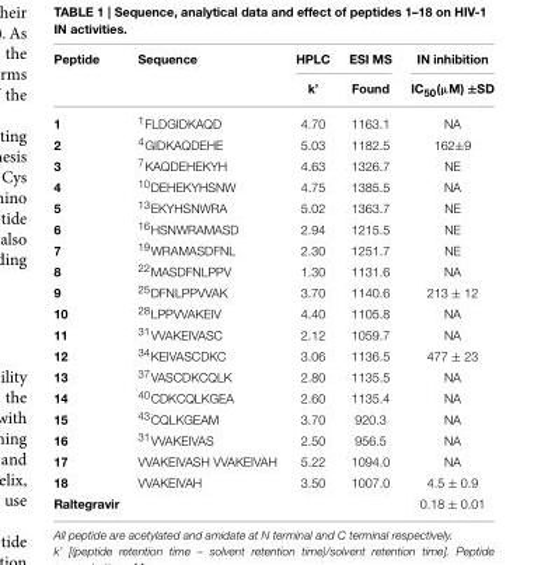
<table><thead><tr><td rowspan="2">Peptide</td><td rowspan="2">Sequence</td><td rowspan="2">HPLC k’</td><td rowspan="2">ESI MS Found</td><td rowspan="2">IN inhibition IC<sub>50</sub>(µM) ±SD</td></tr><tr></tr></thead><tbody><tr><td>1</td><td><sup>1</sup>FLDGIDKAQD</td><td>4.70</td><td>1163.1</td><td>NA</td></tr><tr><td>2</td><td><sup>4</sup>GIDKAQDEHE</td><td>5.03</td><td>1182.5</td><td>162±9</td></tr><tr><td>3</td><td><sup>7</sup>KAQDEHEKYH</td><td>4.63</td><td>1326.7</td><td>NE</td></tr><tr><td>4</td><td><sup>10</sup>DEHEKYHSNW</td><td>4.75</td><td>1385.5</td><td>NA</td></tr><tr><td>5</td><td><sup>13</sup>EKYHSNWRA</td><td>5.02</td><td>1363.7</td><td>NE</td></tr><tr><td>6</td><td><sup>16</sup>HSNWRAMASD</td><td>2.94</td><td>1215.5</td><td>NE</td></tr><tr><td>7</td><td><sup>19</sup>WRAMASDFNL</td><td>2.30</td><td>1251.7</td><td>NE</td></tr><tr><td>8</td><td><sup>22</sup>MASDFNLPPV</td><td>1.30</td><td>1131.6</td><td>NA</td></tr><tr><td>9</td><td><sup>25</sup>DFNLPPVVAK</td><td>3.70</td><td>1140.6</td><td>213 ± 12</td></tr><tr><td>10</td><td><sup>28</sup>LPPVVAKEIV</td><td>4.40</td><td>1105.8</td><td>NA</td></tr><tr><td>11</td><td><sup>31</sup>VVAKEIVASC</td><td>2.12</td><td>1059.7</td><td>NA</td></tr><tr><td>12</td><td><sup>34</sup>KEIVASCDKC</td><td>3.06</td><td>1136.5</td><td>477 ± 23</td></tr><tr><td>13</td><td><sup>37</sup>VASCDKCQLK</td><td>2.80</td><td>1135.5</td><td>NA</td></tr><tr><td>14</td><td><sup>40</sup>CDKCQLKGEA</td><td>2.60</td><td>1135.4</td><td>NA</td></tr><tr><td>15</td><td><sup>43</sup>CQLKGEAM</td><td>3.70</td><td>920.3</td><td>NA</td></tr><tr><td>16</td><td><sup>31</sup>VVAKEIVAS</td><td>2.50</td><td>956.5</td><td>NA</td></tr><tr><td>17</td><td>VVAKEIVASH VVAKEIVAH</td><td>5.22</td><td>1094.0</td><td>NA</td></tr><tr><td>18</td><td>VVAKEIVAH</td><td>3.50</td><td>1007.0</td><td>4.5 ± 0.9</td></tr><tr><td>Raltegravir</td><td></td><td></td><td></td><td>0.18 ± 0.01</td></tr></tbody></table>